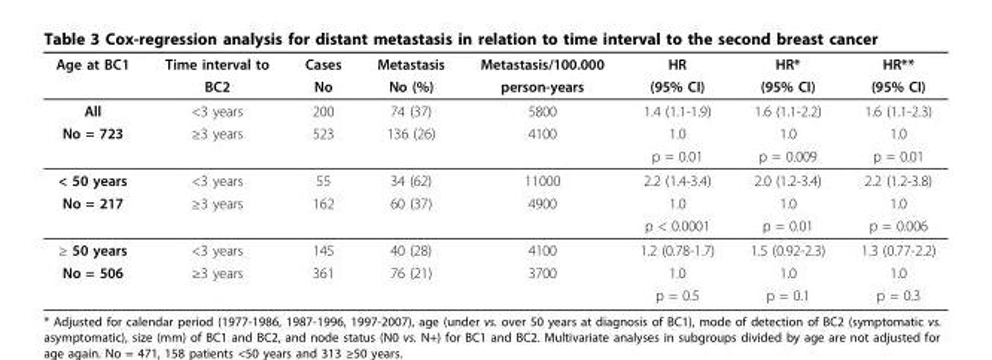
<table><thead><tr><td rowspan="2">Age at BC1</td><td rowspan="2">Time interval to BC2</td><td rowspan="2">Cases No</td><td rowspan="2">Metastasis No (%)</td><td rowspan="2">Metastasis/100.000 person-years</td><td rowspan="2">HR (95% CI)</td><td rowspan="2">HR* (95% CI)</td><td rowspan="2">HR** (95% CI)</td></tr><tr></tr></thead><tbody><tr><td>All</td><td>&lt;3 years</td><td>200</td><td>74 (37)</td><td>5800</td><td>1.4 (1.1-1.9)</td><td>1.6 (1.1-2.2)</td><td>1.6 (1.1-2.3)</td></tr><tr><td rowspan="2">No = 723</td><td>≥3 years</td><td>523</td><td>136 (26)</td><td>4100</td><td>1.0</td><td>1.0</td><td>1.0</td></tr><tr><td></td><td></td><td></td><td></td><td>p = 0.01</td><td>p = 0.009</td><td>p = 0.01</td></tr><tr><td>&lt; 50 years</td><td>&lt;3 years</td><td>55</td><td>34 (62)</td><td>11000</td><td>2.2 (1.4-3.4)</td><td>2.0 (1.2-3.4)</td><td>2.2 (1.2-3.8)</td></tr><tr><td rowspan="2">No = 217</td><td>≥3 years</td><td>162</td><td>60 (37)</td><td>4900</td><td>1.0</td><td>1.0</td><td>1.0</td></tr><tr><td></td><td></td><td></td><td></td><td>p &lt; 0.0001</td><td>p = 0.01</td><td>p = 0.006</td></tr><tr><td>≥ 50 years</td><td>&lt;3 years</td><td>145</td><td>40 (28)</td><td>4100</td><td>1.2 (0.78-1.7)</td><td>1.5 (0.92-2.3)</td><td>1.3 (0.77-2.2)</td></tr><tr><td rowspan="2">No = 506</td><td>≥3 years</td><td>361</td><td>76 (21)</td><td>3700</td><td>1.0</td><td>1.0</td><td>1.0</td></tr><tr><td></td><td></td><td></td><td></td><td>p = 0.5</td><td>p = 0.1</td><td>p = 0.3</td></tr></tbody></table>